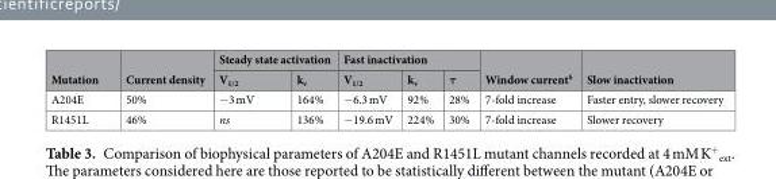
<table><thead><tr><td rowspan="2">Mutation</td><td rowspan="2">Current density</td><td colspan="2">Steady state activation</td><td colspan="3">Fast inactivation</td><td rowspan="2">Window current<sup>$</sup></td><td rowspan="2">Slow inactivation</td></tr><tr><td>V<sub>1/2</sub></td><td>k<sub>v</sub></td><td>V<sub>1/2</sub></td><td>k<sub>v</sub></td><td>τ</td></tr></thead><tbody><tr><td>A204E</td><td>50%</td><td>−3 mV</td><td>164%</td><td>−6.3 mV</td><td>92%</td><td>28%</td><td>7-fold increase</td><td>Faster entry, slower recovery</td></tr><tr><td>R1451L</td><td>46%</td><td>ns</td><td>136%</td><td>−19.6 mV</td><td>224%</td><td>30%</td><td>7-fold increase</td><td>Slower recovery</td></tr></tbody></table>